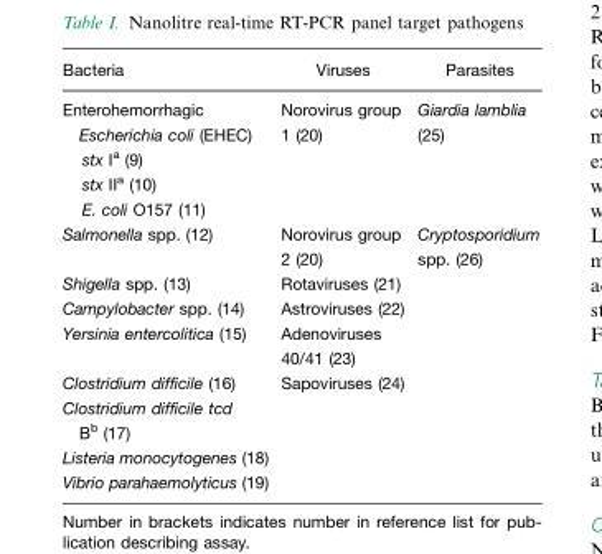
<table><thead><tr><td>Bacteria</td><td>Viruses</td><td>Parasites</td></tr></thead><tbody><tr><td>Enterohemorrhagic Escherichia coli (EHEC)</td><td>Norovirus group 1 (20)</td><td>Giardia lamblia (25)</td></tr><tr><td colspan="3">stx I<sup>a</sup> (9)</td></tr><tr><td colspan="3">stx II<sup>a</sup> (10)</td></tr><tr><td colspan="3">E. coli O157 (11)</td></tr><tr><td>Salmonella spp. (12)</td><td>Norovirus group 2 (20)</td><td>Cryptosporidium spp. (26)</td></tr><tr><td>Shigella spp. (13)</td><td>Rotaviruses (21)</td><td></td></tr><tr><td>Campylobacter spp. (14)</td><td>Astroviruses (22)</td><td></td></tr><tr><td>Yersinia entercolitica (15)</td><td>Adenoviruses 40/41 (23)</td><td></td></tr><tr><td>Clostridium difficile (16)</td><td>Sapoviruses (24)</td><td></td></tr><tr><td colspan="3">Clostridium difficile tcd B<sup>b</sup> (17)</td></tr><tr><td colspan="3">Listeria monocytogenes (18)</td></tr><tr><td>Vibrio parahaemolyticus (19)</td><td></td><td></td></tr></tbody></table>